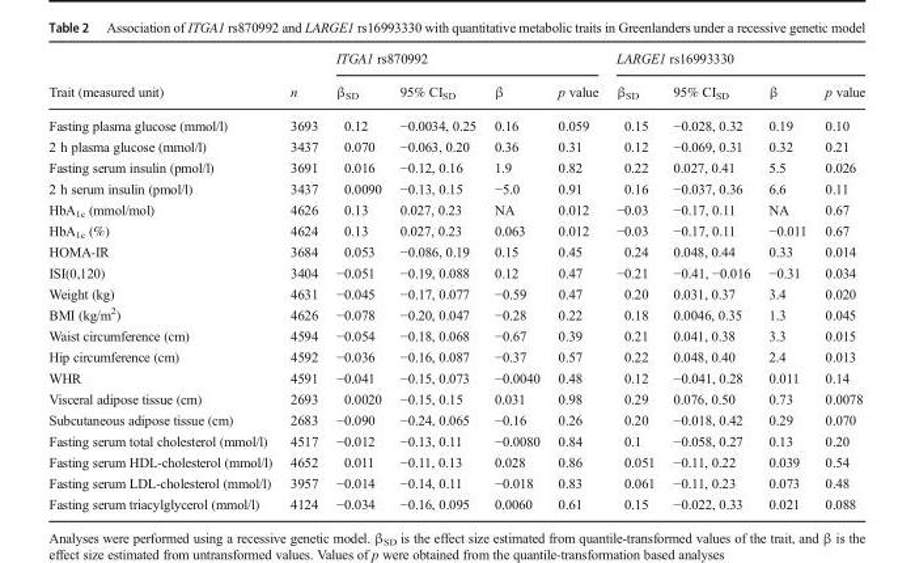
<table><thead><tr><td rowspan="2">Trait (measured unit)</td><td rowspan="2">n</td><td colspan="4">ITGA1 rs870992</td><td colspan="4">LARGE1 rs16993330</td></tr><tr><td>β<sub>SD</sub></td><td>95% CI<sub>SD</sub></td><td>β</td><td>p value</td><td>β<sub>SD</sub></td><td>95% CI<sub>SD</sub></td><td>β</td><td>p value</td></tr></thead><tbody><tr><td>Fasting plasma glucose (mmol/l)</td><td>3693</td><td>0.12</td><td>−0.0034, 0.25</td><td>0.16</td><td>0.059</td><td>0.15</td><td>−0.028, 0.32</td><td>0.19</td><td>0.10</td></tr><tr><td>2 h plasma glucose (mmol/l)</td><td>3437</td><td>0.070</td><td>−0.063, 0.20</td><td>0.36</td><td>0.31</td><td>0.12</td><td>−0.069, 0.31</td><td>0.32</td><td>0.21</td></tr><tr><td>Fasting serum insulin (pmol/l)</td><td>3691</td><td>0.016</td><td>−0.12, 0.16</td><td>1.9</td><td>0.82</td><td>0.22</td><td>0.027, 0.41</td><td>5.5</td><td>0.026</td></tr><tr><td>2 h serum insulin (pmol/l)</td><td>3437</td><td>0.0090</td><td>−0.13, 0.15</td><td>−5.0</td><td>0.91</td><td>0.16</td><td>−0.037, 0.36</td><td>6.6</td><td>0.11</td></tr><tr><td>HbA<sub>1c</sub> (mmol/mol)</td><td>4626</td><td>0.13</td><td>0.027, 0.23</td><td>NA</td><td>0.012</td><td>−0.03</td><td>−0.17, 0.11</td><td>NA</td><td>0.67</td></tr><tr><td>HbA<sub>1c</sub> (%)</td><td>4624</td><td>0.13</td><td>0.027, 0.23</td><td>0.063</td><td>0.012</td><td>−0.03</td><td>−0.17, 0.11</td><td>−0.011</td><td>0.67</td></tr><tr><td>HOMA-IR</td><td>3684</td><td>0.053</td><td>−0.086, 0.19</td><td>0.15</td><td>0.45</td><td>0.24</td><td>0.048, 0.44</td><td>0.33</td><td>0.014</td></tr><tr><td>ISI(0,120)</td><td>3404</td><td>−0.051</td><td>−0.19, 0.088</td><td>0.12</td><td>0.47</td><td>−0.21</td><td>−0.41, −0.016</td><td>−0.31</td><td>0.034</td></tr><tr><td>Weight (kg)</td><td>4631</td><td>−0.045</td><td>−0.17, 0.077</td><td>−0.59</td><td>0.47</td><td>0.20</td><td>0.031, 0.37</td><td>3.4</td><td>0.020</td></tr><tr><td>BMI (kg/m<sup>2</sup>)</td><td>4626</td><td>−0.078</td><td>−0.20, 0.047</td><td>−0.28</td><td>0.22</td><td>0.18</td><td>0.0046, 0.35</td><td>1.3</td><td>0.045</td></tr><tr><td>Waist circumference (cm)</td><td>4594</td><td>−0.054</td><td>−0.18, 0.068</td><td>−0.67</td><td>0.39</td><td>0.21</td><td>0.041, 0.38</td><td>3.3</td><td>0.015</td></tr><tr><td>Hip circumference (cm)</td><td>4592</td><td>−0.036</td><td>−0.16, 0.087</td><td>−0.37</td><td>0.57</td><td>0.22</td><td>0.048, 0.40</td><td>2.4</td><td>0.013</td></tr><tr><td>WHR</td><td>4591</td><td>−0.041</td><td>−0.15, 0.073</td><td>−0.0040</td><td>0.48</td><td>0.12</td><td>−0.041, 0.28</td><td>0.011</td><td>0.14</td></tr><tr><td>Visceral adipose tissue (cm)</td><td>2693</td><td>0.0020</td><td>−0.15, 0.15</td><td>0.031</td><td>0.98</td><td>0.29</td><td>0.076, 0.50</td><td>0.73</td><td>0.0078</td></tr><tr><td>Subcutaneous adipose tissue (cm)</td><td>2683</td><td>−0.090</td><td>−0.24, 0.065</td><td>−0.16</td><td>0.26</td><td>0.20</td><td>−0.018, 0.42</td><td>0.29</td><td>0.070</td></tr><tr><td>Fasting serum total cholesterol (mmol/l)</td><td>4517</td><td>−0.012</td><td>−0.13, 0.11</td><td>−0.0080</td><td>0.84</td><td>0.1</td><td>−0.058, 0.27</td><td>0.13</td><td>0.20</td></tr><tr><td>Fasting serum HDL-cholesterol (mmol/l)</td><td>4652</td><td>0.011</td><td>−0.11, 0.13</td><td>0.028</td><td>0.86</td><td>0.051</td><td>−0.11, 0.22</td><td>0.039</td><td>0.54</td></tr><tr><td>Fasting serum LDL-cholesterol (mmol/l)</td><td>3957</td><td>−0.014</td><td>−0.14, 0.11</td><td>−0.018</td><td>0.83</td><td>0.061</td><td>−0.11, 0.23</td><td>0.073</td><td>0.48</td></tr><tr><td>Fasting serum triacylglycerol (mmol/l)</td><td>4124</td><td>−0.034</td><td>−0.16, 0.095</td><td>0.0060</td><td>0.61</td><td>0.15</td><td>−0.022, 0.33</td><td>0.021</td><td>0.088</td></tr></tbody></table>